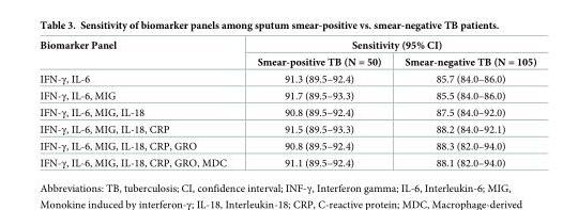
<table><thead><tr><td rowspan="2">Biomarker Panel</td><td colspan="2">Sensitivity (95% CI)</td></tr><tr><td>Smear-positive TB (N = 50)</td><td>Smear-negative TB (N = 105)</td></tr></thead><tbody><tr><td>IFN-γ, IL-6</td><td>91.3 (89.5–92.4)</td><td>85.7 (84.0–86.0)</td></tr><tr><td>IFN-γ, IL-6, MIG</td><td>91.7 (89.5–93.3)</td><td>85.5 (84.0–86.0)</td></tr><tr><td>IFN-γ, IL-6, MIG, IL-18</td><td>90.8 (89.5–92.4)</td><td>87.5 (84.0–92.0)</td></tr><tr><td>IFN-γ, IL-6, MIG, IL-18, CRP</td><td>91.5 (89.5–93.3)</td><td>88.2 (84.0–92.1)</td></tr><tr><td>IFN-γ, IL-6, MIG, IL-18, CRP, GRO</td><td>90.8 (89.5–92.4)</td><td>88.3 (82.0–94.0)</td></tr><tr><td>IFN-γ, IL-6, MIG, IL-18, CRP, GRO, MDC</td><td>91.1 (89.5–92.4)</td><td>88.1 (82.0–94.0)</td></tr></tbody></table>